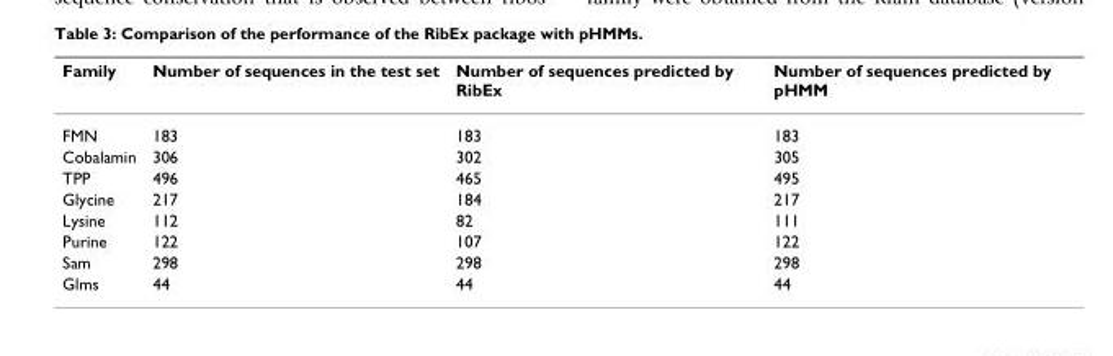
<table><thead><tr><td>Family</td><td>Number of sequences in the test set</td><td>Number of sequences predicted by RibEx</td><td>Number of sequences predicted by pHMM</td></tr></thead><tbody><tr><td>FMN</td><td>183</td><td>183</td><td>183</td></tr><tr><td>Cobalamin</td><td>306</td><td>302</td><td>305</td></tr><tr><td>TPP</td><td>496</td><td>465</td><td>495</td></tr><tr><td>Glycine</td><td>217</td><td>184</td><td>217</td></tr><tr><td>Lysine</td><td>112</td><td>82</td><td>111</td></tr><tr><td>Purine</td><td>122</td><td>107</td><td>122</td></tr><tr><td>Sam</td><td>298</td><td>298</td><td>298</td></tr><tr><td>Glms</td><td>44</td><td>44</td><td>44</td></tr></tbody></table>